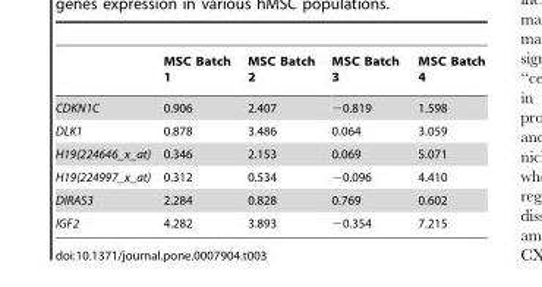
<table><thead><tr><td></td><td>MSC Batch 1</td><td>MSC Batch 2</td><td>MSC Batch 3</td><td>MSC Batch 4</td></tr></thead><tbody><tr><td>CDKN1C</td><td>0.906</td><td>2.407</td><td>−0.819</td><td>1.598</td></tr><tr><td>DLK1</td><td>0.878</td><td>3.486</td><td>0.064</td><td>3.059</td></tr><tr><td>H19(224646_x_at)</td><td>0.346</td><td>2.153</td><td>0.069</td><td>5.071</td></tr><tr><td>H19(224997_x_at)</td><td>0.312</td><td>0.534</td><td>−0.096</td><td>4.410</td></tr><tr><td>DIRAS3</td><td>2.284</td><td>0.828</td><td>0.769</td><td>0.602</td></tr><tr><td>IGF2</td><td>4.282</td><td>3.893</td><td>−0.354</td><td>7.215</td></tr></tbody></table>